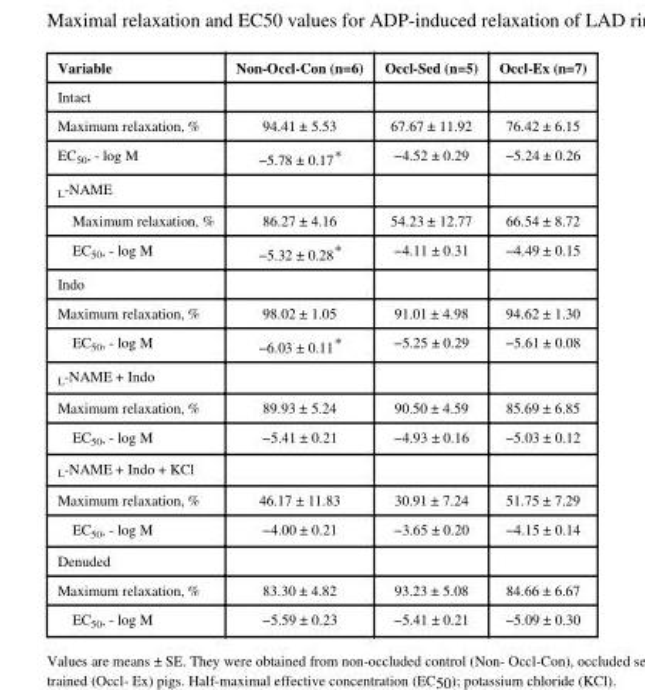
<table><thead><tr><td>Variable</td><td>Non-Occl-Con (n=6)</td><td>Occl-Sed (n=5)</td><td>Occl-Ex (n=7)</td></tr></thead><tbody><tr><td colspan="4">Intact</td></tr><tr><td>Maximum relaxation, %</td><td>94.41 ± 5.53</td><td>67.67 ± 11.92</td><td>76.42 ± 6.15</td></tr><tr><td>EC<sub>50</sub>, - log M</td><td>−5.78 ± 0.17*</td><td>−4.52 ± 0.29</td><td>−5.24 ± 0.26</td></tr><tr><td colspan="4"><sub>L</sub>-NAME</td></tr><tr><td>Maximum relaxation, %</td><td>86.27 ± 4.16</td><td>54.23 ± 12.77</td><td>66.54 ± 8.72</td></tr><tr><td>EC<sub>50</sub>, - log M</td><td>−5.32 ± 0.28*</td><td>−4.11 ± 0.31</td><td>−4.49 ± 0.15</td></tr><tr><td colspan="4">Indo</td></tr><tr><td>Maximum relaxation, %</td><td>98.02 ± 1.05</td><td>91.01 ± 4.98</td><td>94.62 ± 1.30</td></tr><tr><td>EC<sub>50</sub>, - log M</td><td>−6.03 ± 0.11*</td><td>−5.25 ± 0.29</td><td>−5.61 ± 0.08</td></tr><tr><td colspan="4"><sub>L</sub>-NAME + Indo</td></tr><tr><td>Maximum relaxation, %</td><td>89.93 ± 5.24</td><td>90.50 ± 4.59</td><td>85.69 ± 6.85</td></tr><tr><td>EC<sub>50</sub>, - log M</td><td>−5.41 ± 0.21</td><td>−4.93 ± 0.16</td><td>−5.03 ± 0.12</td></tr><tr><td colspan="4"><sub>L</sub>-NAME + Indo + KCl</td></tr><tr><td>Maximum relaxation, %</td><td>46.17 ± 11.83</td><td>30.91 ± 7.24</td><td>51.75 ± 7.29</td></tr><tr><td>EC<sub>50</sub>, - log M</td><td>−4.00 ± 0.21</td><td>−3.65 ± 0.20</td><td>−4.15 ± 0.14</td></tr><tr><td colspan="4">Denuded</td></tr><tr><td>Maximum relaxation, %</td><td>83.30 ± 4.82</td><td>93.23 ± 5.08</td><td>84.66 ± 6.67</td></tr><tr><td>EC<sub>50</sub>, - log M</td><td>−5.59 ± 0.23</td><td>−5.41 ± 0.21</td><td>−5.09 ± 0.30</td></tr></tbody></table>